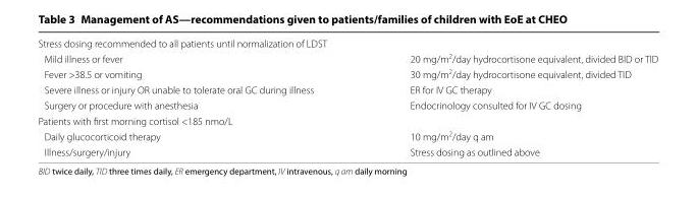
<table><tbody><tr><td colspan="2">Stress dosing recommended to all patients until normalization of LDST</td></tr><tr><td>Mild illness or fever</td><td>20 mg/m<sup>2</sup>/day hydrocortisone equivalent, divided BID or TID</td></tr><tr><td>Fever &gt;38.5 or vomiting</td><td>30 mg/m<sup>2</sup>/day hydrocortisone equivalent, divided TID</td></tr><tr><td>Severe illness or injury OR unable to tolerate oral GC during illness</td><td>ER for IV GC therapy</td></tr><tr><td>Surgery or procedure with anesthesia</td><td>Endocrinology consulted for IV GC dosing</td></tr><tr><td colspan="2">Patients with first morning cortisol &lt;185 nmo/L</td></tr><tr><td>Daily glucocorticoid therapy</td><td>10 mg/m<sup>2</sup>/day q am</td></tr><tr><td>Illness/surgery/injury</td><td>Stress dosing as outlined above</td></tr></tbody></table>